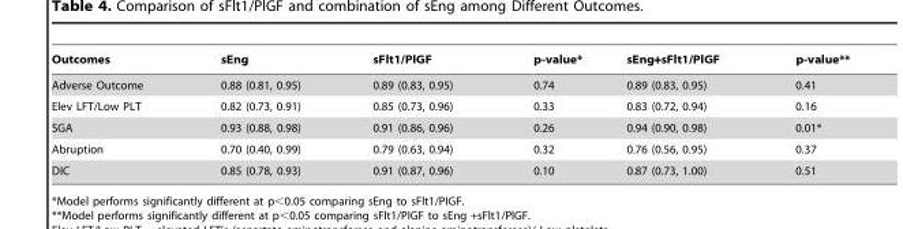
<table><thead><tr><td>Outcomes</td><td>sEng</td><td>sFlt1/PlGF</td><td>p-value*</td><td>sEng+sFlt1/PlGF</td><td>p-value**</td></tr></thead><tbody><tr><td>Adverse Outcome</td><td>0.88 (0.81, 0.95)</td><td>0.89 (0.83, 0.95)</td><td>0.74</td><td>0.89 (0.83, 0.95)</td><td>0.41</td></tr><tr><td>Elev LFT/Low PLT</td><td>0.82 (0.73, 0.91)</td><td>0.85 (0.73, 0.96)</td><td>0.33</td><td>0.83 (0.72, 0.94)</td><td>0.16</td></tr><tr><td>SGA</td><td>0.93 (0.88, 0.98)</td><td>0.91 (0.86, 0.96)</td><td>0.26</td><td>0.94 (0.90, 0.98)</td><td>0.01*</td></tr><tr><td>Abruption</td><td>0.70 (0.40, 0.99)</td><td>0.79 (0.63, 0.94)</td><td>0.32</td><td>0.76 (0.56, 0.95)</td><td>0.37</td></tr><tr><td>DIC</td><td>0.85 (0.78, 0.93)</td><td>0.91 (0.87, 0.96)</td><td>0.10</td><td>0.87 (0.73, 1.00)</td><td>0.51</td></tr></tbody></table>